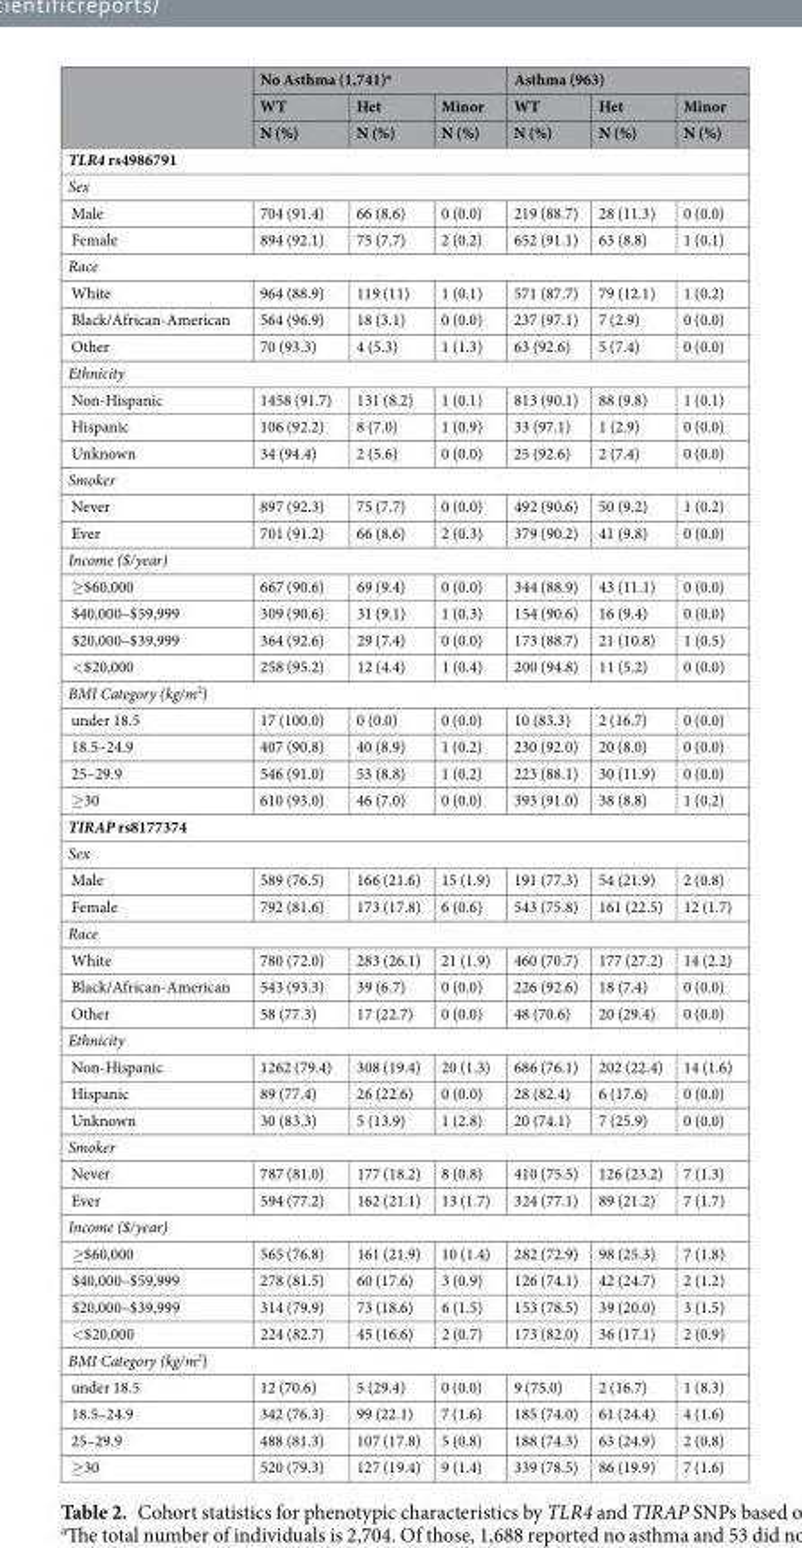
<table><thead><tr><td rowspan="3"></td><td colspan="3">No Asthma (1,741)<sup>a</sup></td><td colspan="3">Asthma (963)</td></tr><tr><td rowspan="2">WT N (%)</td><td rowspan="2">Het N (%)</td><td rowspan="2">Minor N (%)</td><td rowspan="2">WT N (%)</td><td rowspan="2">Het N (%)</td><td rowspan="2">Minor N (%)</td></tr><tr></tr></thead><tbody><tr><td colspan="7">TLR4 rs4986791</td></tr><tr><td colspan="7">Sex</td></tr><tr><td>Male</td><td>704 (91.4)</td><td>66 (8.6)</td><td>0 (0.0)</td><td>219 (88.7)</td><td>28 (11.3)</td><td>0 (0.0)</td></tr><tr><td>Female</td><td>894 (92.1)</td><td>75 (7.7)</td><td>2 (0.2)</td><td>652 (91.1)</td><td>63 (8.8)</td><td>1 (0.1)</td></tr><tr><td colspan="7">Race</td></tr><tr><td>White</td><td>964 (88.9)</td><td>119 (11)</td><td>1 (0.1)</td><td>571 (87.7)</td><td>79 (12.1)</td><td>1 (0.2)</td></tr><tr><td>Black/African-American</td><td>564 (96.9)</td><td>18 (3.1)</td><td>0 (0.0)</td><td>237 (97.1)</td><td>7 (2.9)</td><td>0 (0.0)</td></tr><tr><td>Other</td><td>70 (93.3)</td><td>4 (5.3)</td><td>1 (1.3)</td><td>63 (92.6)</td><td>5 (7.4)</td><td>0 (0.0)</td></tr><tr><td colspan="7">Ethnicity</td></tr><tr><td>Non-Hispanic</td><td>1458 (91.7)</td><td>131 (8.2)</td><td>1 (0.1)</td><td>813 (90.1)</td><td>88 (9.8)</td><td>1 (0.1)</td></tr><tr><td>Hispanic</td><td>106 (92.2)</td><td>8 (7.0)</td><td>1 (0.9)</td><td>33 (97.1)</td><td>1 (2.9)</td><td>0 (0.0)</td></tr><tr><td>Unknown</td><td>34 (94.4)</td><td>2 (5.6)</td><td>0 (0.0)</td><td>25 (92.6)</td><td>2 (7.4)</td><td>0 (0.0)</td></tr><tr><td colspan="7">Smoker</td></tr><tr><td>Never</td><td>897 (92.3)</td><td>75 (7.7)</td><td>0 (0.0)</td><td>492 (90.6)</td><td>50 (9.2)</td><td>1 (0.2)</td></tr><tr><td>Ever</td><td>701 (91.2)</td><td>66 (8.6)</td><td>2 (0.3)</td><td>379 (90.2)</td><td>41 (9.8)</td><td>0 (0.0)</td></tr><tr><td colspan="7">Income ($/year)</td></tr><tr><td>≥$60,000</td><td>667 (90.6)</td><td>69 (9.4)</td><td>0 (0.0)</td><td>344 (88.9)</td><td>43 (11.1)</td><td>0 (0.0)</td></tr><tr><td>$40,000–$59,999</td><td>309 (90.6)</td><td>31 (9.1)</td><td>1 (0.3)</td><td>154 (90.6)</td><td>16 (9.4)</td><td>0 (0.0)</td></tr><tr><td>$20,000–$39,999</td><td>364 (92.6)</td><td>29 (7.4)</td><td>0 (0.0)</td><td>173 (88.7)</td><td>21 (10.8)</td><td>1 (0.5)</td></tr><tr><td>&lt;$20,000</td><td>258 (95.2)</td><td>12 (4.4)</td><td>1 (0.4)</td><td>200 (94.8)</td><td>11 (5.2)</td><td>0 (0.0)</td></tr><tr><td colspan="7">BMI Category (kg/m<sup>2</sup>)</td></tr><tr><td>under 18.5</td><td>17 (100.0)</td><td>0 (0.0)</td><td>0 (0.0)</td><td>10 (83.3)</td><td>2 (16.7)</td><td>0 (0.0)</td></tr><tr><td>18.5–24.9</td><td>407 (90.8)</td><td>40 (8.9)</td><td>1 (0.2)</td><td>230 (92.0)</td><td>20 (8.0)</td><td>0 (0.0)</td></tr><tr><td>25–29.9</td><td>546 (91.0)</td><td>53 (8.8)</td><td>1 (0.2)</td><td>223 (88.1)</td><td>30 (11.9)</td><td>0 (0.0)</td></tr><tr><td>≥30</td><td>610 (93.0)</td><td>46 (7.0)</td><td>0 (0.0)</td><td>393 (91.0)</td><td>38 (8.8)</td><td>1 (0.2)</td></tr><tr><td colspan="7">TIRAP rs8177374</td></tr><tr><td colspan="7">Sex</td></tr><tr><td>Male</td><td>589 (76.5)</td><td>166 (21.6)</td><td>15 (1.9)</td><td>191 (77.3)</td><td>54 (21.9)</td><td>2 (0.8)</td></tr><tr><td>Female</td><td>792 (81.6)</td><td>173 (17.8)</td><td>6 (0.6)</td><td>543 (75.8)</td><td>161 (22.5)</td><td>12 (1.7)</td></tr><tr><td colspan="7">Race</td></tr><tr><td>White</td><td>780 (72.0)</td><td>283 (26.1)</td><td>21 (1.9)</td><td>460 (70.7)</td><td>177 (27.2)</td><td>14 (2.2)</td></tr><tr><td>Black/African-American</td><td>543 (93.3)</td><td>39 (6.7)</td><td>0 (0.0)</td><td>226 (92.6)</td><td>18 (7.4)</td><td>0 (0.0)</td></tr><tr><td>Other</td><td>58 (77.3)</td><td>17 (22.7)</td><td>0 (0.0)</td><td>48 (70.6)</td><td>20 (29.4)</td><td>0 (0.0)</td></tr><tr><td colspan="7">Ethnicity</td></tr><tr><td>Non-Hispanic</td><td>1262 (79.4)</td><td>308 (19.4)</td><td>20 (1.3)</td><td>686 (76.1)</td><td>202 (22.4)</td><td>14 (1.6)</td></tr><tr><td>Hispanic</td><td>89 (77.4)</td><td>26 (22.6)</td><td>0 (0.0)</td><td>28 (82.4)</td><td>6 (17.6)</td><td>0 (0.0)</td></tr><tr><td>Unknown</td><td>30 (83.3)</td><td>5 (13.9)</td><td>1 (2.8)</td><td>20 (74.1)</td><td>7 (25.9)</td><td>0 (0.0)</td></tr><tr><td colspan="7">Smoker</td></tr><tr><td>Never</td><td>787 (81.0)</td><td>177 (18.2)</td><td>8 (0.8)</td><td>410 (75.5)</td><td>126 (23.2)</td><td>7 (1.3)</td></tr><tr><td>Ever</td><td>594 (77.2)</td><td>162 (21.1)</td><td>13 (1.7)</td><td>324 (77.1)</td><td>89 (21.2)</td><td>7 (1.7)</td></tr><tr><td colspan="7">Income ($/year)</td></tr><tr><td>≥$60,000</td><td>565 (76.8)</td><td>161 (21.9)</td><td>10 (1.4)</td><td>282 (72.9)</td><td>98 (25.3)</td><td>7 (1.8)</td></tr><tr><td>$40,000–$59,999</td><td>278 (81.5)</td><td>60 (17.6)</td><td>3 (0.9)</td><td>126 (74.1)</td><td>42 (24.7)</td><td>2 (1.2)</td></tr><tr><td>$20,000–$39,999</td><td>314 (79.9)</td><td>73 (18.6)</td><td>6 (1.5)</td><td>153 (78.5)</td><td>39 (20.0)</td><td>3 (1.5)</td></tr><tr><td>&lt;$20,000</td><td>224 (82.7)</td><td>45 (16.6)</td><td>2 (0.7)</td><td>173 (82.0)</td><td>36 (17.1)</td><td>2 (0.9)</td></tr><tr><td colspan="7">BMI Category (kg/m<sup>2</sup>)</td></tr><tr><td>under 18.5</td><td>12 (70.6)</td><td>5 (29.4)</td><td>0 (0.0)</td><td>9 (75.0)</td><td>2 (16.7)</td><td>1 (8.3)</td></tr><tr><td>18.5–24.9</td><td>342 (76.3)</td><td>99 (22.1)</td><td>7 (1.6)</td><td>185 (74.0)</td><td>61 (24.4)</td><td>4 (1.6)</td></tr><tr><td>25–29.9</td><td>488 (81.3)</td><td>107 (17.8)</td><td>5 (0.8)</td><td>188 (74.3)</td><td>63 (24.9)</td><td>2 (0.8)</td></tr><tr><td>≥30</td><td>520 (79.3)</td><td>127 (19.4)</td><td>9 (1.4)</td><td>339 (78.5)</td><td>86 (19.9)</td><td>7 (1.6)</td></tr></tbody></table>